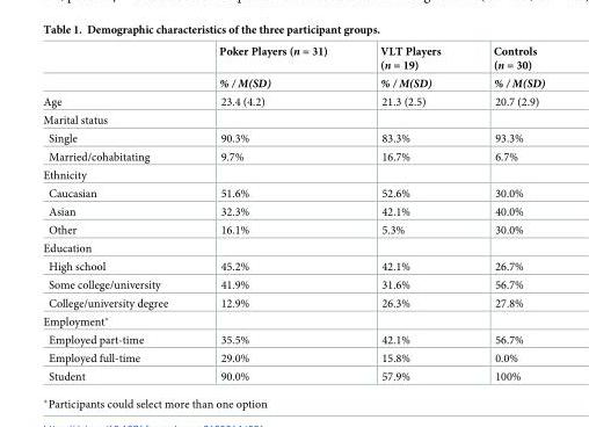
<table><thead><tr><td rowspan="2"></td><td rowspan="2">Poker Players (n = 31) % / M(SD)</td><td rowspan="2">VLT Players (n = 19) % / M(SD)</td><td rowspan="2">Controls (n = 30) % / M(SD)</td></tr><tr></tr></thead><tbody><tr><td>Age</td><td>23.4 (4.2)</td><td>21.3 (2.5)</td><td>20.7 (2.9)</td></tr><tr><td colspan="4">Marital status</td></tr><tr><td>Single</td><td>90.3%</td><td>83.3%</td><td>93.3%</td></tr><tr><td>Married/cohabitating</td><td>9.7%</td><td>16.7%</td><td>6.7%</td></tr><tr><td colspan="4">Ethnicity</td></tr><tr><td>Caucasian</td><td>51.6%</td><td>52.6%</td><td>30.0%</td></tr><tr><td>Asian</td><td>32.3%</td><td>42.1%</td><td>40.0%</td></tr><tr><td>Other</td><td>16.1%</td><td>5.3%</td><td>30.0%</td></tr><tr><td colspan="4">Education</td></tr><tr><td>High school</td><td>45.2%</td><td>42.1%</td><td>26.7%</td></tr><tr><td>Some college/university</td><td>41.9%</td><td>31.6%</td><td>56.7%</td></tr><tr><td>College/university degree</td><td>12.9%</td><td>26.3%</td><td>27.8%</td></tr><tr><td colspan="4">Employment*</td></tr><tr><td>Employed part-time</td><td>35.5%</td><td>42.1%</td><td>56.7%</td></tr><tr><td>Employed full-time</td><td>29.0%</td><td>15.8%</td><td>0.0%</td></tr><tr><td>Student</td><td>90.0%</td><td>57.9%</td><td>100%</td></tr></tbody></table>